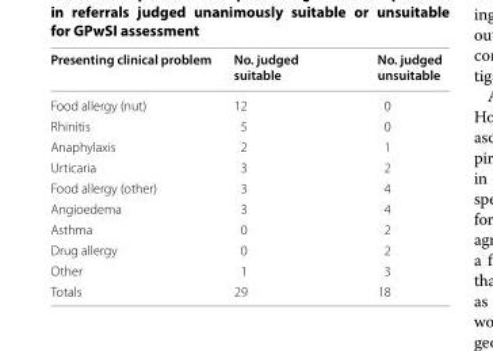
<table><thead><tr><td>Presenting clinical problem</td><td>No. judged suitable</td><td>No. judged unsuitable</td></tr></thead><tbody><tr><td>Food allergy (nut)</td><td>12</td><td>0</td></tr><tr><td>Rhinitis</td><td>5</td><td>0</td></tr><tr><td>Anaphylaxis</td><td>2</td><td>1</td></tr><tr><td>Urticaria</td><td>3</td><td>2</td></tr><tr><td>Food allergy (other)</td><td>3</td><td>4</td></tr><tr><td>Angioedema</td><td>3</td><td>4</td></tr><tr><td>Asthma</td><td>0</td><td>2</td></tr><tr><td>Drug allergy</td><td>0</td><td>2</td></tr><tr><td>Other</td><td>1</td><td>3</td></tr><tr><td>Totals</td><td>29</td><td>18</td></tr></tbody></table>